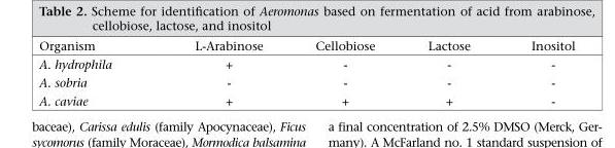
<table><thead><tr><td>Organism</td><td>L-Arabinose</td><td>Cellobiose</td><td>Lactose</td><td>Inositol</td></tr></thead><tbody><tr><td>A. hydrophila</td><td>+</td><td>-</td><td>-</td><td>-</td></tr><tr><td>A. sobria</td><td>-</td><td>-</td><td>-</td><td>-</td></tr><tr><td>A. caviae</td><td>+</td><td>+</td><td>+</td><td>-</td></tr></tbody></table>